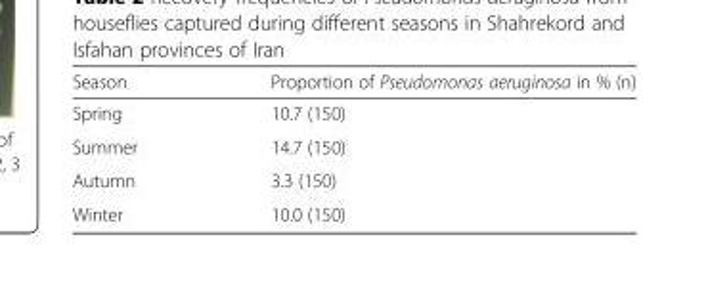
<table><thead><tr><td>Season</td><td>Proportion of Pseudomonas aeruginosa in % (n)</td></tr></thead><tbody><tr><td>Spring</td><td>10.7 (150)</td></tr><tr><td>Summer</td><td>14.7 (150)</td></tr><tr><td>Autumn</td><td>3.3 (150)</td></tr><tr><td>Winter</td><td>10.0 (150)</td></tr></tbody></table>